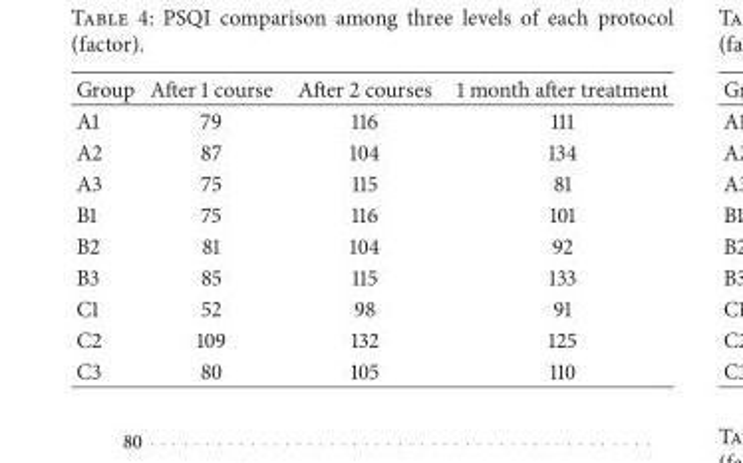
<table><thead><tr><td>Group</td><td>After 1 course</td><td>After 2 courses</td><td>1 month after treatment</td></tr></thead><tbody><tr><td>A1</td><td>79</td><td>116</td><td>111</td></tr><tr><td>A2</td><td>87</td><td>104</td><td>134</td></tr><tr><td>A3</td><td>75</td><td>115</td><td>81</td></tr><tr><td>B1</td><td>75</td><td>116</td><td>101</td></tr><tr><td>B2</td><td>81</td><td>104</td><td>92</td></tr><tr><td>B3</td><td>85</td><td>115</td><td>133</td></tr><tr><td>C1</td><td>52</td><td>98</td><td>91</td></tr><tr><td>C2</td><td>109</td><td>132</td><td>125</td></tr><tr><td>C3</td><td>80</td><td>105</td><td>110</td></tr></tbody></table>